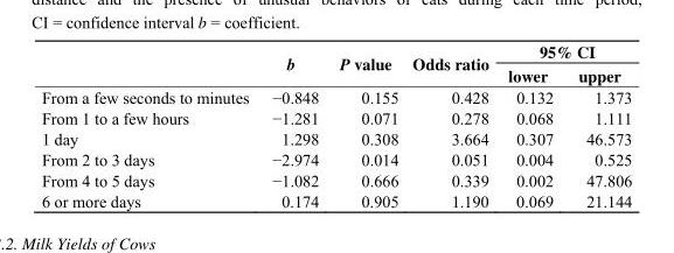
<table><thead><tr><td rowspan="2"></td><td rowspan="2">b</td><td rowspan="2">P value</td><td rowspan="2">Odds ratio</td><td colspan="2">95% CI</td></tr><tr><td>lower</td><td>upper</td></tr></thead><tbody><tr><td>From a few seconds to minutes</td><td>−0.848</td><td>0.155</td><td>0.428</td><td>0.132</td><td>1.373</td></tr><tr><td>From 1 to a few hours</td><td>−1.281</td><td>0.071</td><td>0.278</td><td>0.068</td><td>1.111</td></tr><tr><td>1 day</td><td>1.298</td><td>0.308</td><td>3.664</td><td>0.307</td><td>46.573</td></tr><tr><td>From 2 to 3 days</td><td>−2.974</td><td>0.014</td><td>0.051</td><td>0.004</td><td>0.525</td></tr><tr><td>From 4 to 5 days</td><td>−1.082</td><td>0.666</td><td>0.339</td><td>0.002</td><td>47.806</td></tr><tr><td>6 or more days</td><td>0.174</td><td>0.905</td><td>1.190</td><td>0.069</td><td>21.144</td></tr></tbody></table>